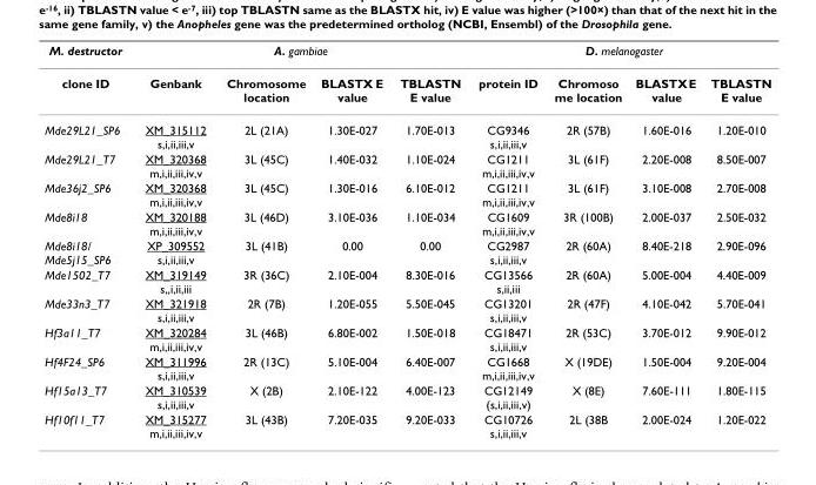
<table><thead><tr><td rowspan="2">M. destructor clone ID</td><td colspan="4">A. gambiae</td><td colspan="4">D. melanogaster</td></tr><tr><td>Genbank</td><td>Chromosome location</td><td>BLASTX E value</td><td>TBLASTN E value</td><td>protein ID</td><td>Chromoso me location</td><td>BLASTX E value</td><td>TBLASTN E value</td></tr></thead><tbody><tr><td>Mde29L21_SP6</td><td>XM_315112 s,i,ii,iii,v</td><td>2L (21A)</td><td>1.30E-027</td><td>1.70E-013</td><td>CG9346 s,i,ii,iii,v</td><td>2R (57B)</td><td>1.60E-016</td><td>1.20E-010</td></tr><tr><td>Mde29L21_T7</td><td>XM_320368 m,i,ii,iii,iv,v</td><td>3L (45C)</td><td>1.40E-032</td><td>1.10E-024</td><td>CG1211 m,i,ii,iii,iv,v</td><td>3L (61F)</td><td>2.20E-008</td><td>8.50E-007</td></tr><tr><td>Mde36j2_SP6</td><td>XM_320368 m,i,ii,iii,iv,v</td><td>3L (45C)</td><td>1.30E-016</td><td>6.10E-012</td><td>CG1211 m,i,ii,iii,iv,v</td><td>3L (61F)</td><td>3.10E-008</td><td>2.70E-008</td></tr><tr><td>Mde8i18</td><td>XM_320188 m,i,ii,iii,iv,v</td><td>3L (46D)</td><td>3.10E-036</td><td>1.10E-034</td><td>CG1609 m,i,ii,iii,iv,v</td><td>3R (100B)</td><td>2.00E-037</td><td>2.50E-032</td></tr><tr><td>Mde8i18/ Mde5j15_SP6</td><td>XP_309552 s,i,ii,iii,v</td><td>3L (41B)</td><td>0.00</td><td>0.00</td><td>CG2987 s,i,ii,iii,v</td><td>2R (60A)</td><td>8.40E-218</td><td>2.90E-096</td></tr><tr><td>Mde1502_T7</td><td>XM_319149 s,,i,ii,iii</td><td>3R (36C)</td><td>2.10E-004</td><td>8.30E-016</td><td>CG13566 s,ii,iii</td><td>2R (60A)</td><td>5.00E-004</td><td>4.40E-009</td></tr><tr><td>Mde33n3_T7</td><td>XM_321918 s,i,ii,iii,v</td><td>2R (7B)</td><td>1.20E-055</td><td>5.50E-045</td><td>CG13201 s,i,ii,iii,v</td><td>2R (47F)</td><td>4.10E-042</td><td>5.70E-041</td></tr><tr><td>Hf3a11_T7</td><td>XM_320284 m,i,ii,iii,iv,v</td><td>3L (46B)</td><td>6.80E-002</td><td>1.50E-018</td><td>CG18471 s,i,ii,iii,v</td><td>2R (53C)</td><td>3.70E-012</td><td>9.90E-012</td></tr><tr><td>Hf4F24_SP6</td><td>XM_311996 s,i,ii,iii,v</td><td>2R (13C)</td><td>5.10E-004</td><td>6.40E-007</td><td>CG1668 m,i,ii,iii,iv,v</td><td>X (19DE)</td><td>1.50E-004</td><td>9.20E-004</td></tr><tr><td>Hf15a13_T7</td><td>XM_310539 s,i,ii,iii,v</td><td>X (2B)</td><td>2.10E-122</td><td>4.00E-123</td><td>CG12149 (s,i,ii,iii,v)</td><td>X (8E)</td><td>7.60E-111</td><td>1.80E-115</td></tr><tr><td>Hf10f11_T7</td><td>XM_315277 m,i,ii,iii,iv,v</td><td>3L (43B)</td><td>7.20E-035</td><td>9.20E-033</td><td>CG10726 s,i,ii,iii,v</td><td>2L (38B</td><td>2.00E-024</td><td>1.20E-022</td></tr></tbody></table>